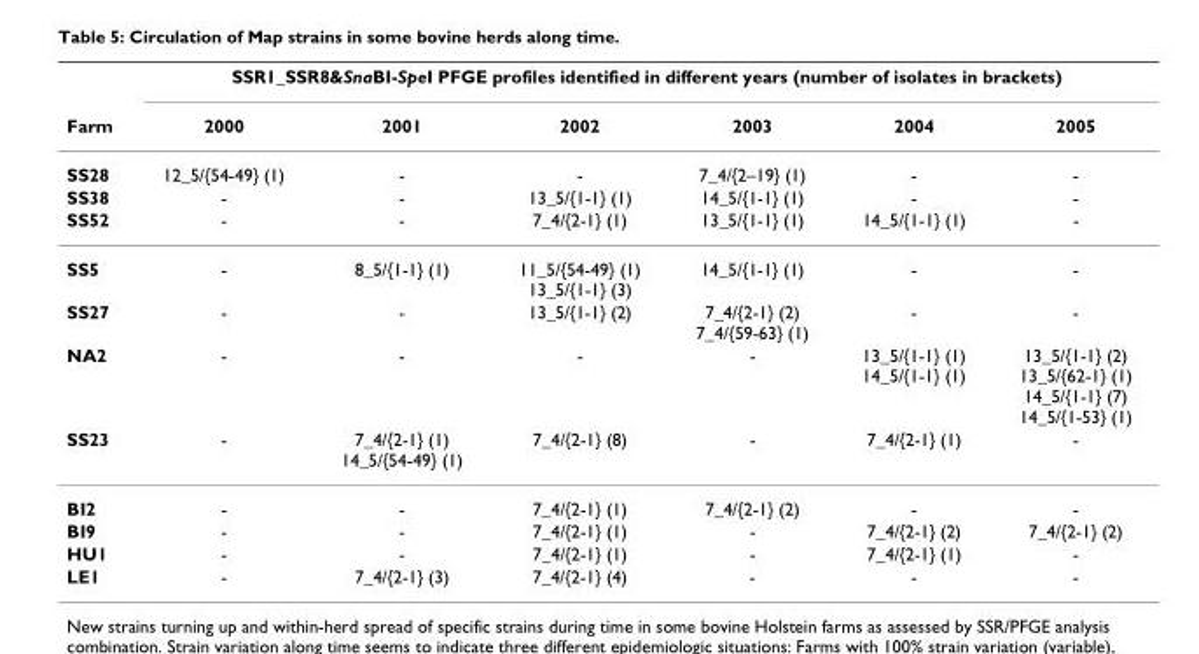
<table><thead><tr><td rowspan="2">Farm</td><td colspan="6">SSR1_SSR8&amp;SnaBI-SpeI PFGE profiles identified in different years (number of isolates in brackets)</td></tr><tr><td>2000</td><td>2001</td><td>2002</td><td>2003</td><td>2004</td><td>2005</td></tr></thead><tbody><tr><td>SS28</td><td>12_5/{54-49} (1)</td><td>-</td><td>-</td><td>7_4/{2–19} (1)</td><td>-</td><td>-</td></tr><tr><td>SS38</td><td>-</td><td>-</td><td>13_5/{1-1} (1)</td><td>14_5/{1-1} (1)</td><td>-</td><td>-</td></tr><tr><td>SS52</td><td>-</td><td>-</td><td>7_4/{2-1} (1)</td><td>13_5/{1-1} (1)</td><td>14_5/{1-1} (1)</td><td>-</td></tr><tr><td>SS5</td><td>-</td><td>8_5/{1-1} (1)</td><td>11_5/{54-49} (1) 13_5/{1-1} (3)</td><td>14_5/{1-1} (1)</td><td>-</td><td>-</td></tr><tr><td>SS27</td><td>-</td><td>-</td><td>13_5/{1-1} (2)</td><td>7_4/{2-1} (2) 7_4/{59-63} (1)</td><td>-</td><td>-</td></tr><tr><td>NA2</td><td>-</td><td>-</td><td>-</td><td>-</td><td>13_5/{1-1} (1) 14_5/{1-1} (1)</td><td>13_5/{1-1} (2) 13_5/{62-1} (1) 14_5/{1-1} (7) 14_5/{1-53} (1)</td></tr><tr><td>SS23</td><td>-</td><td>7_4/{2-1} (1) 14_5/{54-49} (1)</td><td>7_4/{2-1} (8)</td><td>-</td><td>7_4/{2-1} (1)</td><td>-</td></tr><tr><td>BI2</td><td>-</td><td>-</td><td>7_4/{2-1} (1)</td><td>7_4/{2-1} (2)</td><td>-</td><td>-</td></tr><tr><td>BI9</td><td>-</td><td>-</td><td>7_4/{2-1} (1)</td><td>-</td><td>7_4/{2-1} (2)</td><td>7_4/{2-1} (2)</td></tr><tr><td>HU1</td><td>-</td><td>-</td><td>7_4/{2-1} (1)</td><td>-</td><td>7_4/{2-1} (1)</td><td>-</td></tr><tr><td>LE1</td><td>-</td><td>7_4/{2-1} (3)</td><td>7_4/{2-1} (4)</td><td>-</td><td>-</td><td>-</td></tr></tbody></table>